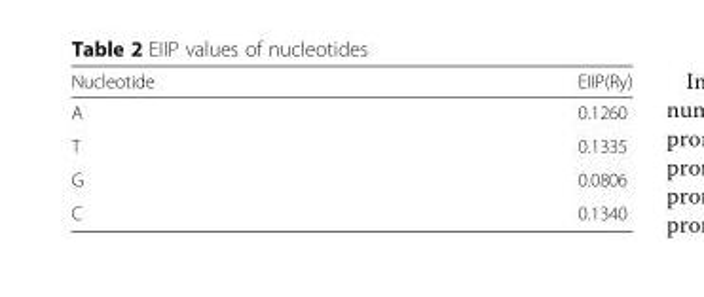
<table><thead><tr><td>Nucleotide</td><td>EIIP(Ry)</td></tr></thead><tbody><tr><td>A</td><td>0.1260</td></tr><tr><td>T</td><td>0.1335</td></tr><tr><td>G</td><td>0.0806</td></tr><tr><td>C</td><td>0.1340</td></tr></tbody></table>